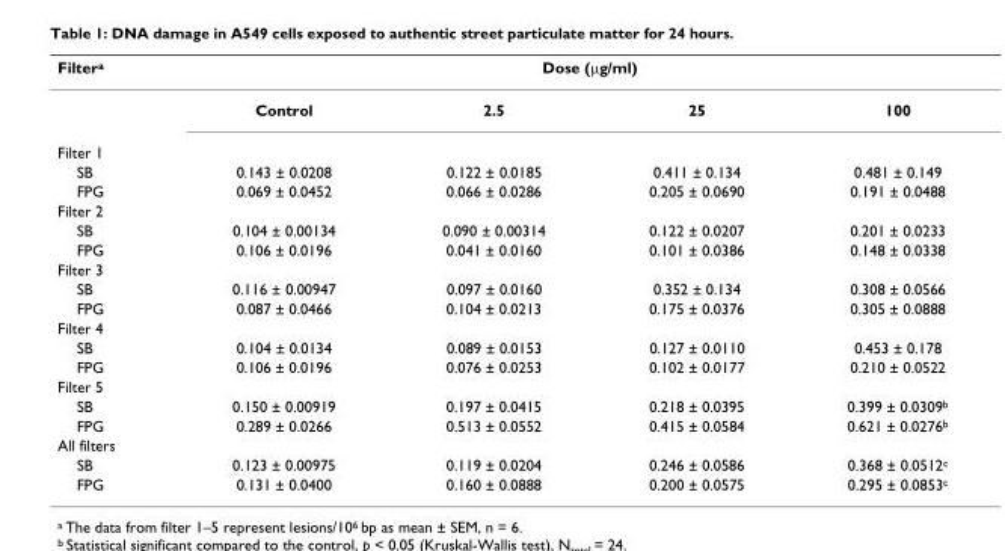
<table><thead><tr><td rowspan="2">Filter<sup>a</sup></td><td colspan="4">Dose (μg/ml)</td></tr><tr><td>Control</td><td>2.5</td><td>25</td><td>100</td></tr></thead><tbody><tr><td colspan="5">Filter 1</td></tr><tr><td>SB</td><td>0.143 ± 0.0208</td><td>0.122 ± 0.0185</td><td>0.411 ± 0.134</td><td>0.481 ± 0.149</td></tr><tr><td>FPG</td><td>0.069 ± 0.0452</td><td>0.066 ± 0.0286</td><td>0.205 ± 0.0690</td><td>0.191 ± 0.0488</td></tr><tr><td colspan="5">Filter 2</td></tr><tr><td>SB</td><td>0.104 ± 0.00134</td><td>0.090 ± 0.00314</td><td>0.122 ± 0.0207</td><td>0.201 ± 0.0233</td></tr><tr><td>FPG</td><td>0.106 ± 0.0196</td><td>0.041 ± 0.0160</td><td>0.101 ± 0.0386</td><td>0.148 ± 0.0338</td></tr><tr><td colspan="5">Filter 3</td></tr><tr><td>SB</td><td>0.116 ± 0.00947</td><td>0.097 ± 0.0160</td><td>0.352 ± 0.134</td><td>0.308 ± 0.0566</td></tr><tr><td>FPG</td><td>0.087 ± 0.0466</td><td>0.104 ± 0.0213</td><td>0.175 ± 0.0376</td><td>0.305 ± 0.0888</td></tr><tr><td colspan="5">Filter 4</td></tr><tr><td>SB</td><td>0.104 ± 0.0134</td><td>0.089 ± 0.0153</td><td>0.127 ± 0.0110</td><td>0.453 ± 0.178</td></tr><tr><td>FPG</td><td>0.106 ± 0.0196</td><td>0.076 ± 0.0253</td><td>0.102 ± 0.0177</td><td>0.210 ± 0.0522</td></tr><tr><td colspan="5">Filter 5</td></tr><tr><td>SB</td><td>0.150 ± 0.00919</td><td>0.197 ± 0.0415</td><td>0.218 ± 0.0395</td><td>0.399 ± 0.0309<sup>b</sup></td></tr><tr><td>FPG</td><td>0.289 ± 0.0266</td><td>0.513 ± 0.0552</td><td>0.415 ± 0.0584</td><td>0.621 ± 0.0276<sup>b</sup></td></tr><tr><td colspan="5">All filters</td></tr><tr><td>SB</td><td>0.123 ± 0.00975</td><td>0.119 ± 0.0204</td><td>0.246 ± 0.0586</td><td>0.368 ± 0.0512<sup>c</sup></td></tr><tr><td>FPG</td><td>0.131 ± 0.0400</td><td>0.160 ± 0.0888</td><td>0.200 ± 0.0575</td><td>0.295 ± 0.0853<sup>c</sup></td></tr></tbody></table>